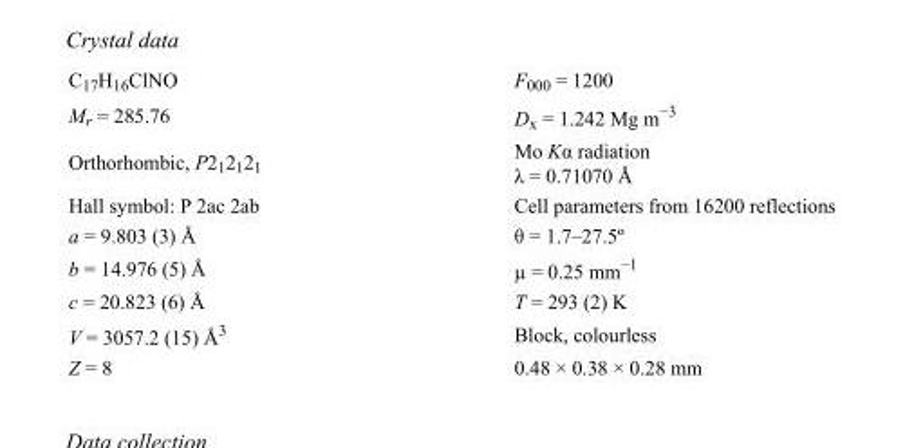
<table><tbody><tr><td>C<sub>17</sub>H<sub>16</sub>ClNO</td><td>F<sub>000</sub> = 1200</td></tr><tr><td>M<sub>r</sub> = 285.76</td><td>D<sub>x</sub> = 1.242 Mg m<sup>−3</sup></td></tr><tr><td>Orthorhombic, P2<sub>1</sub>2<sub>1</sub>2<sub>1</sub></td><td>Mo Kα radiation λ = 0.71070 Å</td></tr><tr><td>Hall symbol: P 2ac 2ab</td><td>Cell parameters from 16200 reflections</td></tr><tr><td>a = 9.803 (3) Å</td><td>θ = 1.7–27.5º</td></tr><tr><td>b = 14.976 (5) Å</td><td>µ = 0.25 mm<sup>−1</sup></td></tr><tr><td>c = 20.823 (6) Å</td><td>T = 293 (2) K</td></tr><tr><td>V = 3057.2 (15) Å<sup>3</sup></td><td>Block, colourless</td></tr><tr><td>Z = 8</td><td>0.48 × 0.38 × 0.28 mm</td></tr></tbody></table>